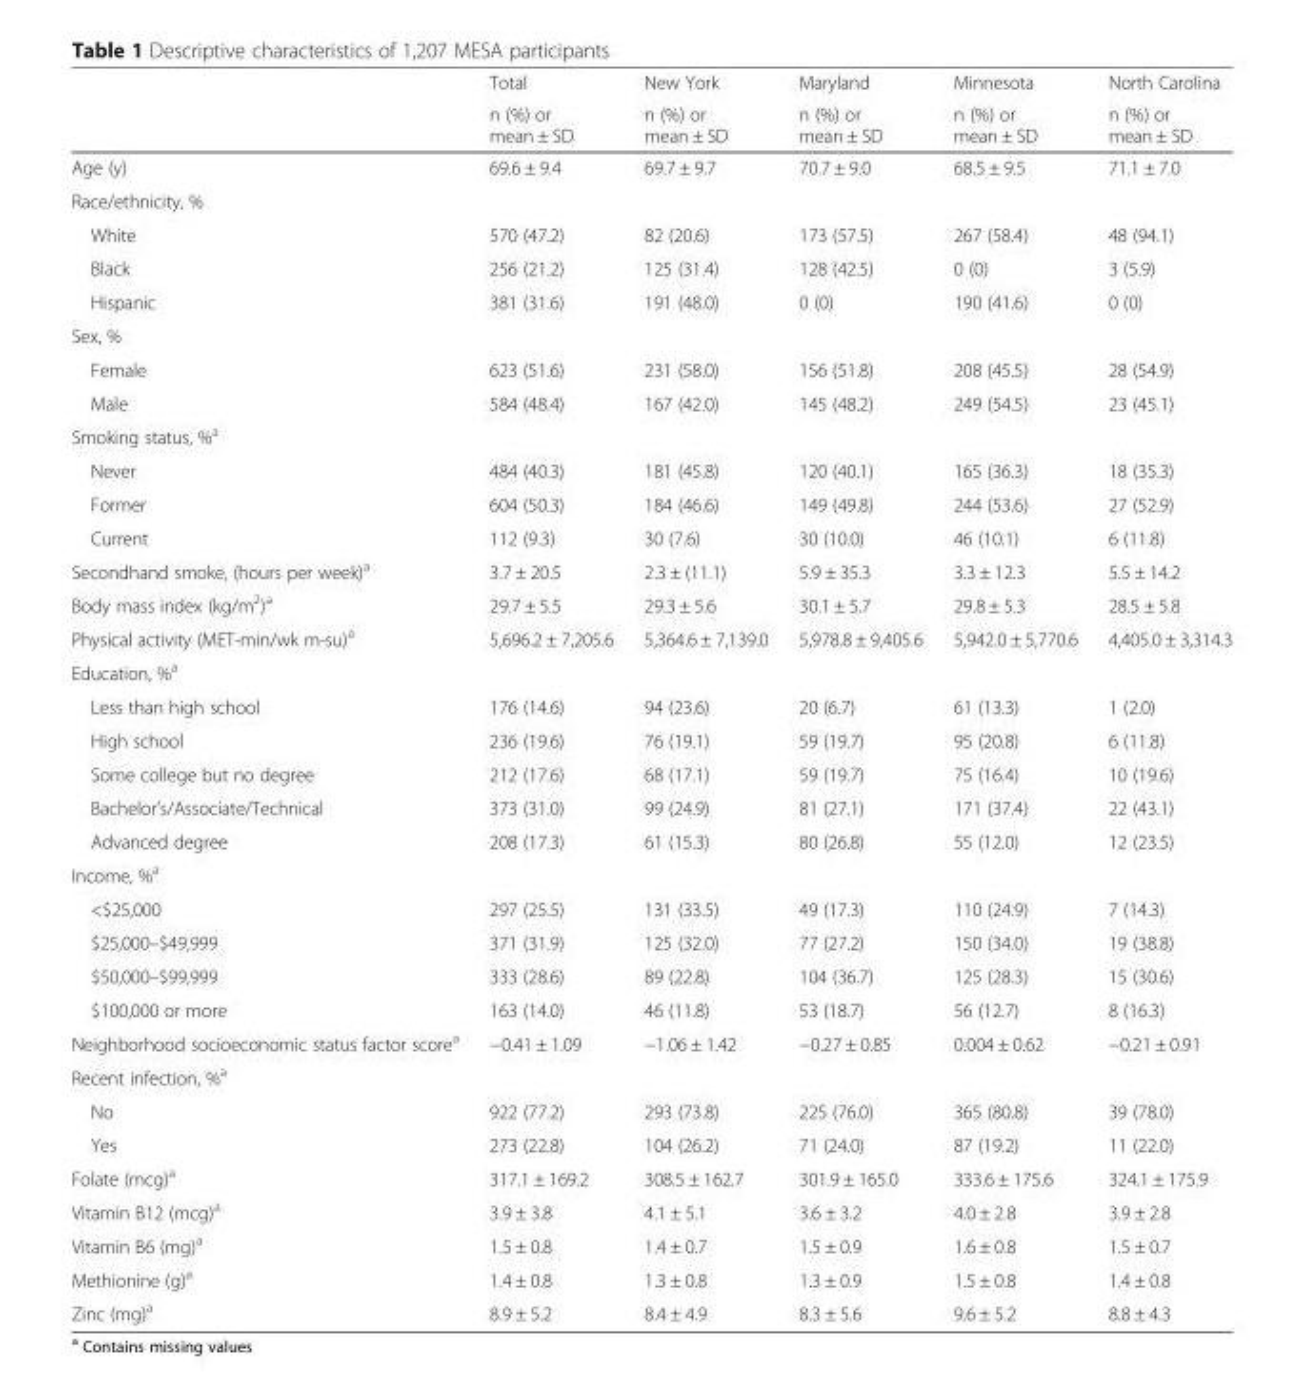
<table><thead><tr><td rowspan="2"></td><td rowspan="2">Total n (%) or mean ± SD</td><td rowspan="2">New York n (%) or mean ± SD</td><td rowspan="2">Maryland n (%) or mean ± SD</td><td rowspan="2">Minnesota n (%) or mean ± SD</td><td rowspan="2">North Carolina n (%) or mean ± SD</td></tr><tr></tr></thead><tbody><tr><td>Age (y)</td><td>69.6 ± 9.4</td><td>69.7 ± 9.7</td><td>70.7 ± 9.0</td><td>68.5 ± 9.5</td><td>71.1 ± 7.0</td></tr><tr><td colspan="6">Race/ethnicity, %</td></tr><tr><td>White</td><td>570 (47.2)</td><td>82 (20.6)</td><td>173 (57.5)</td><td>267 (58.4)</td><td>48 (94.1)</td></tr><tr><td>Black</td><td>256 (21.2)</td><td>125 (31.4)</td><td>128 (42.5)</td><td>0 (0)</td><td>3 (5.9)</td></tr><tr><td>Hispanic</td><td>381 (31.6)</td><td>191 (48.0)</td><td>0 (0)</td><td>190 (41.6)</td><td>0 (0)</td></tr><tr><td colspan="6">Sex, %</td></tr><tr><td>Female</td><td>623 (51.6)</td><td>231 (58.0)</td><td>156 (51.8)</td><td>208 (45.5)</td><td>28 (54.9)</td></tr><tr><td>Male</td><td>584 (48.4)</td><td>167 (42.0)</td><td>145 (48.2)</td><td>249 (54.5)</td><td>23 (45.1)</td></tr><tr><td colspan="6">Smoking status, %<sup>a</sup></td></tr><tr><td>Never</td><td>484 (40.3)</td><td>181 (45.8)</td><td>120 (40.1)</td><td>165 (36.3)</td><td>18 (35.3)</td></tr><tr><td>Former</td><td>604 (50.3)</td><td>184 (46.6)</td><td>149 (49.8)</td><td>244 (53.6)</td><td>27 (52.9)</td></tr><tr><td>Current</td><td>112 (9.3)</td><td>30 (7.6)</td><td>30 (10.0)</td><td>46 (10.1)</td><td>6 (11.8)</td></tr><tr><td>Secondhand smoke, (hours per week)<sup>a</sup></td><td>3.7 ± 20.5</td><td>2.3 ± (11.1)</td><td>5.9 ± 35.3</td><td>3.3 ± 12.3</td><td>5.5 ± 14.2</td></tr><tr><td>Body mass index (kg/m<sup>2</sup>)<sup>a</sup></td><td>29.7 ± 5.5</td><td>29.3 ± 5.6</td><td>30.1 ± 5.7</td><td>29.8 ± 5.3</td><td>28.5 ± 5.8</td></tr><tr><td>Physical activity (MET-min/wk m-su)<sup>a</sup></td><td>5,696.2 ± 7,205.6</td><td>5,364.6 ± 7,139.0</td><td>5,978.8 ± 9,405.6</td><td>5,942.0 ± 5,770.6</td><td>4,405.0 ± 3,314.3</td></tr><tr><td colspan="6">Education, %<sup>a</sup></td></tr><tr><td>Less than high school</td><td>176 (14.6)</td><td>94 (23.6)</td><td>20 (6.7)</td><td>61 (13.3)</td><td>1 (2.0)</td></tr><tr><td>High school</td><td>236 (19.6)</td><td>76 (19.1)</td><td>59 (19.7)</td><td>95 (20.8)</td><td>6 (11.8)</td></tr><tr><td>Some college but no degree</td><td>212 (17.6)</td><td>68 (17.1)</td><td>59 (19.7)</td><td>75 (16.4)</td><td>10 (19.6)</td></tr><tr><td>Bachelor’s/Associate/Technical</td><td>373 (31.0)</td><td>99 (24.9)</td><td>81 (27.1)</td><td>171 (37.4)</td><td>22 (43.1)</td></tr><tr><td>Advanced degree</td><td>208 (17.3)</td><td>61 (15.3)</td><td>80 (26.8)</td><td>55 (12.0)</td><td>12 (23.5)</td></tr><tr><td colspan="6">Income, %<sup>a</sup></td></tr><tr><td>&lt;$25,000</td><td>297 (25.5)</td><td>131 (33.5)</td><td>49 (17.3)</td><td>110 (24.9)</td><td>7 (14.3)</td></tr><tr><td>$25,000–$49,999</td><td>371 (31.9)</td><td>125 (32.0)</td><td>77 (27.2)</td><td>150 (34.0)</td><td>19 (38.8)</td></tr><tr><td>$50,000–$99,999</td><td>333 (28.6)</td><td>89 (22.8)</td><td>104 (36.7)</td><td>125 (28.3)</td><td>15 (30.6)</td></tr><tr><td>$100,000 or more</td><td>163 (14.0)</td><td>46 (11.8)</td><td>53 (18.7)</td><td>56 (12.7)</td><td>8 (16.3)</td></tr><tr><td>Neighborhood socioeconomic status factor score<sup>a</sup></td><td>−0.41 ± 1.09</td><td>−1.06 ± 1.42</td><td>−0.27 ± 0.85</td><td>0.004 ± 0.62</td><td>−0.21 ± 0.91</td></tr><tr><td colspan="6">Recent infection, %<sup>a</sup></td></tr><tr><td>No</td><td>922 (77.2)</td><td>293 (73.8)</td><td>225 (76.0)</td><td>365 (80.8)</td><td>39 (78.0)</td></tr><tr><td>Yes</td><td>273 (22.8)</td><td>104 (26.2)</td><td>71 (24.0)</td><td>87 (19.2)</td><td>11 (22.0)</td></tr><tr><td>Folate (mcg)<sup>a</sup></td><td>317.1 ± 169.2</td><td>308.5 ± 162.7</td><td>301.9 ± 165.0</td><td>333.6 ± 175.6</td><td>324.1 ± 175.9</td></tr><tr><td>Vitamin B12 (mcg)<sup>a</sup></td><td>3.9 ± 3.8</td><td>4.1 ± 5.1</td><td>3.6 ± 3.2</td><td>4.0 ± 2.8</td><td>3.9 ± 2.8</td></tr><tr><td>Vitamin B6 (mg)<sup>a</sup></td><td>1.5 ± 0.8</td><td>1.4 ± 0.7</td><td>1.5 ± 0.9</td><td>1.6 ± 0.8</td><td>1.5 ± 0.7</td></tr><tr><td>Methionine (g)<sup>a</sup></td><td>1.4 ± 0.8</td><td>1.3 ± 0.8</td><td>1.3 ± 0.9</td><td>1.5 ± 0.8</td><td>1.4 ± 0.8</td></tr><tr><td>Zinc (mg)<sup>a</sup></td><td>8.9 ± 5.2</td><td>8.4 ± 4.9</td><td>8.3 ± 5.6</td><td>9.6 ± 5.2</td><td>8.8 ± 4.3</td></tr></tbody></table>